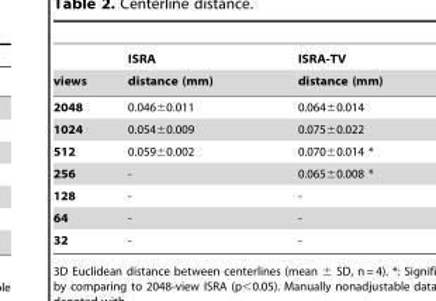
<table><thead><tr><td rowspan="2">views</td><td rowspan="2">ISRA distance (mm)</td><td rowspan="2">ISRA-TV distance (mm)</td></tr><tr></tr></thead><tbody><tr><td>2048</td><td>0.046±0.011</td><td>0.064±0.014</td></tr><tr><td>1024</td><td>0.054±0.009</td><td>0.075±0.022</td></tr><tr><td>512</td><td>0.059±0.002</td><td>0.070±0.014 *</td></tr><tr><td>256</td><td>-</td><td>0.065±0.008 *</td></tr><tr><td>128</td><td>-</td><td>-</td></tr><tr><td>64</td><td>-</td><td>-</td></tr><tr><td>32</td><td>-</td><td>-</td></tr></tbody></table>